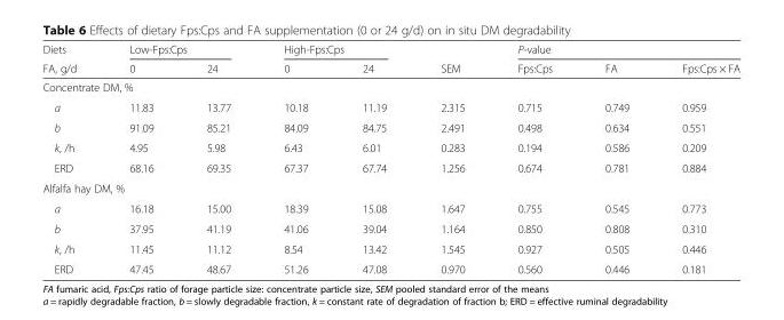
<table><thead><tr><td rowspan="2">Diets FA, g/d</td><td colspan="2">Low-Fps:Cps</td><td colspan="2">High-Fps:Cps</td><td rowspan="2">SEM</td><td colspan="3">P-value</td></tr><tr><td>0</td><td>24</td><td>0</td><td>24</td><td>Fps:Cps</td><td>FA</td><td>Fps:Cps × FA</td></tr></thead><tbody><tr><td colspan="9">Concentrate DM, %</td></tr><tr><td>a</td><td>11.83</td><td>13.77</td><td>10.18</td><td>11.19</td><td>2.315</td><td>0.715</td><td>0.749</td><td>0.959</td></tr><tr><td>b</td><td>91.09</td><td>85.21</td><td>84.09</td><td>84.75</td><td>2.491</td><td>0.498</td><td>0.634</td><td>0.551</td></tr><tr><td>k, /h</td><td>4.95</td><td>5.98</td><td>6.43</td><td>6.01</td><td>0.283</td><td>0.194</td><td>0.586</td><td>0.209</td></tr><tr><td>ERD</td><td>68.16</td><td>69.35</td><td>67.37</td><td>67.74</td><td>1.256</td><td>0.674</td><td>0.781</td><td>0.884</td></tr><tr><td colspan="9">Alfalfa hay DM, %</td></tr><tr><td>a</td><td>16.18</td><td>15.00</td><td>18.39</td><td>15.08</td><td>1.647</td><td>0.755</td><td>0.545</td><td>0.773</td></tr><tr><td>b</td><td>37.95</td><td>41.19</td><td>41.06</td><td>39.04</td><td>1.164</td><td>0.850</td><td>0.808</td><td>0.310</td></tr><tr><td>k, /h</td><td>11.45</td><td>11.12</td><td>8.54</td><td>13.42</td><td>1.545</td><td>0.927</td><td>0.505</td><td>0.446</td></tr><tr><td>ERD</td><td>47.45</td><td>48.67</td><td>51.26</td><td>47.08</td><td>0.970</td><td>0.560</td><td>0.446</td><td>0.181</td></tr></tbody></table>